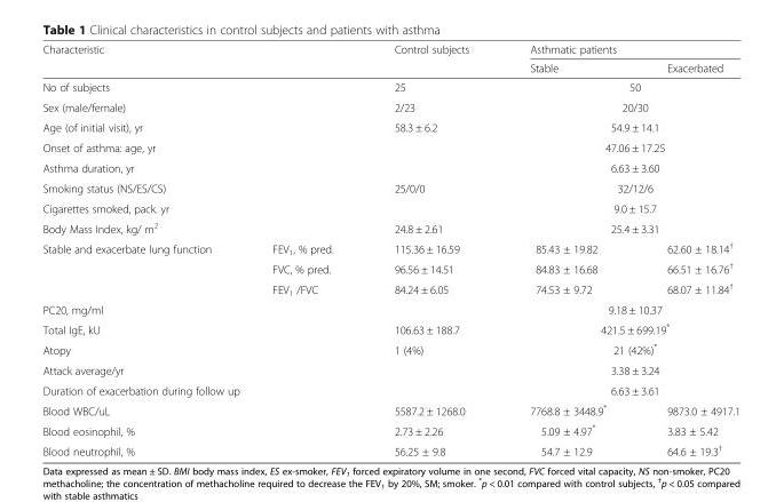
<table><thead><tr><td rowspan="2" colspan="2">Characteristic</td><td rowspan="2">Control subjects</td><td colspan="2">Asthmatic patients</td></tr><tr><td>Stable</td><td>Exacerbated</td></tr></thead><tbody><tr><td colspan="2">No of subjects</td><td>25</td><td colspan="2">50</td></tr><tr><td colspan="2">Sex (male/female)</td><td>2/23</td><td colspan="2">20/30</td></tr><tr><td colspan="2">Age (of initial visit), yr</td><td>58.3 ± 6.2</td><td colspan="2">54.9 ± 14.1</td></tr><tr><td colspan="2">Onset of asthma: age, yr</td><td></td><td colspan="2">47.06 ± 17.25</td></tr><tr><td colspan="2">Asthma duration, yr</td><td></td><td colspan="2">6.63 ± 3.60</td></tr><tr><td colspan="2">Smoking status (NS/ES/CS)</td><td>25/0/0</td><td colspan="2">32/12/6</td></tr><tr><td colspan="2">Cigarettes smoked, pack. yr</td><td></td><td colspan="2">9.0 ± 15.7</td></tr><tr><td colspan="2">Body Mass Index, kg/ m<sup>2</sup></td><td>24.8 ± 2.61</td><td colspan="2">25.4 ± 3.31</td></tr><tr><td rowspan="3">Stable and exacerbate lung function</td><td>FEV<sub>1</sub>, % pred.</td><td>115.36 ± 16.59</td><td>85.43 ± 19.82</td><td>62.60 ± 18.14<sup>†</sup></td></tr><tr><td>FVC, % pred.</td><td>96.56 ± 14.51</td><td>84.83 ± 16.68</td><td>66.51 ± 16.76<sup>†</sup></td></tr><tr><td>FEV<sub>1</sub> /FVC</td><td>84.24 ± 6.05</td><td>74.53 ± 9.72</td><td>68.07 ± 11.84<sup>†</sup></td></tr><tr><td colspan="2">PC20, mg/ml</td><td></td><td colspan="2">9.18 ± 10.37</td></tr><tr><td colspan="2">Total IgE, kU</td><td>106.63 ± 188.7</td><td colspan="2">421.5 ± 699.19*</td></tr><tr><td colspan="2">Atopy</td><td>1 (4%)</td><td colspan="2">21 (42%)*</td></tr><tr><td colspan="2">Attack average/yr</td><td></td><td colspan="2">3.38 ± 3.24</td></tr><tr><td colspan="2">Duration of exacerbation during follow up</td><td></td><td colspan="2">6.63 ± 3.61</td></tr><tr><td colspan="2">Blood WBC/uL</td><td>5587.2 ± 1268.0</td><td>7768.8 ± 3448.9*</td><td>9873.0 ± 4917.1</td></tr><tr><td colspan="2">Blood eosinophil, %</td><td>2.73 ± 2.26</td><td>5.09 ± 4.97*</td><td>3.83 ± 5.42</td></tr><tr><td colspan="2">Blood neutrophil, %</td><td>56.25 ± 9.8</td><td>54.7 ± 12.9</td><td>64.6 ± 19.3<sup>†</sup></td></tr></tbody></table>